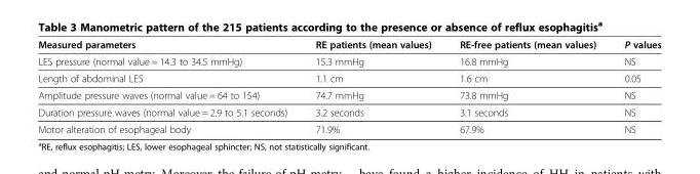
<table><thead><tr><td>Measured parameters</td><td>RE patients (mean values)</td><td>RE-free patients (mean values)</td><td>P values</td></tr></thead><tbody><tr><td>LES pressure (normal value = 14.3 to 34.5 mmHg)</td><td>15.3 mmHg</td><td>16.8 mmHg</td><td>NS</td></tr><tr><td>Length of abdominal LES</td><td>1.1 cm</td><td>1.6 cm</td><td>0.05</td></tr><tr><td>Amplitude pressure waves (normal value = 64 to 154)</td><td>74.7 mmHg</td><td>73.8 mmHg</td><td>NS</td></tr><tr><td>Duration pressure waves (normal value = 2.9 to 5.1 seconds)</td><td>3.2 seconds</td><td>3.1 seconds</td><td>NS</td></tr><tr><td>Motor alteration of esophageal body</td><td>71.9%</td><td>67.9%</td><td>NS</td></tr></tbody></table>